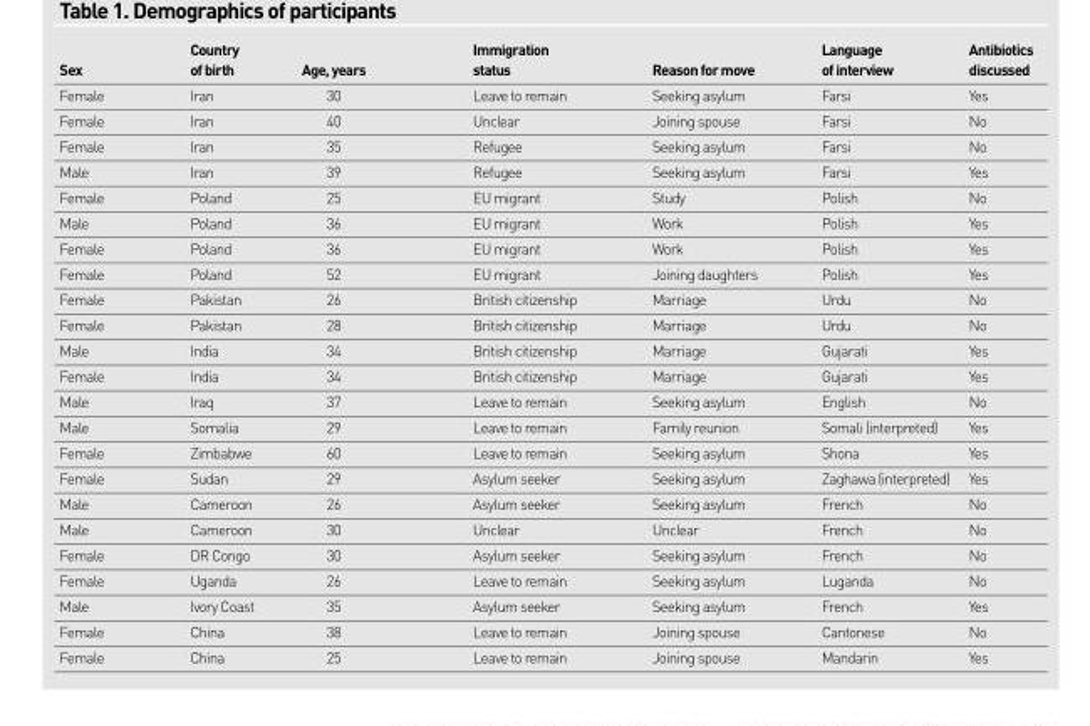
<table><thead><tr><td>Sex</td><td>of birth</td><td>Age, years</td><td>status</td><td>Reason for move</td><td>of interview</td><td>discussed</td></tr></thead><tbody><tr><td>Female</td><td>Iran</td><td>30</td><td>Leave to remain</td><td>Seeking asylum</td><td>Farsi</td><td>Yes</td></tr><tr><td>Female</td><td>Iran</td><td>40</td><td>Unclear</td><td>Joining spouse</td><td>Farsi</td><td>No</td></tr><tr><td>Female</td><td>Iran</td><td>35</td><td>Refugee</td><td>Seeking asylum</td><td>Farsi</td><td>No</td></tr><tr><td>Male</td><td>Iran</td><td>39</td><td>Refugee</td><td>Seeking asylum</td><td>Farsi</td><td>Yes</td></tr><tr><td>Female</td><td>Poland</td><td>25</td><td>EU migrant</td><td>Study</td><td>Polish</td><td>No</td></tr><tr><td>Male</td><td>Poland</td><td>36</td><td>EU migrant</td><td>Work</td><td>Polish</td><td>Yes</td></tr><tr><td>Female</td><td>Poland</td><td>36</td><td>EU migrant</td><td>Work</td><td>Polish</td><td>Yes</td></tr><tr><td>Female</td><td>Poland</td><td>52</td><td>EU migrant</td><td>Joining daughters</td><td>Polish</td><td>Yes</td></tr><tr><td>Female</td><td>Pakistan</td><td>26</td><td>British citizenship</td><td>Marriage</td><td>Urdu</td><td>No</td></tr><tr><td>Female</td><td>Pakistan</td><td>28</td><td>British citizenship</td><td>Marriage</td><td>Urdu</td><td>No</td></tr><tr><td>Male</td><td>India</td><td>34</td><td>British citizenship</td><td>Marriage</td><td>Gujarati</td><td>Yes</td></tr><tr><td>Female</td><td>India</td><td>34</td><td>British citizenship</td><td>Marriage</td><td>Gujarati</td><td>Yes</td></tr><tr><td>Male</td><td>Iraq</td><td>37</td><td>Leave to remain</td><td>Seeking asylum</td><td>English</td><td>No</td></tr><tr><td>Male</td><td>Somalia</td><td>29</td><td>Leave to remain</td><td>Family reunion</td><td>Somali (interpreted)</td><td>Yes</td></tr><tr><td>Female</td><td>Zimbabwe</td><td>60</td><td>Leave to remain</td><td>Seeking asylum</td><td>Shona</td><td>Yes</td></tr><tr><td>Female</td><td>Sudan</td><td>29</td><td>Asylum seeker</td><td>Seeking asylum</td><td>Zaghawa (interpreted)</td><td>Yes</td></tr><tr><td>Male</td><td>Cameroon</td><td>26</td><td>Asylum seeker</td><td>Seeking asylum</td><td>French</td><td>No</td></tr><tr><td>Male</td><td>Cameroon</td><td>30</td><td>Unclear</td><td>Unclear</td><td>French</td><td>No</td></tr><tr><td>Female</td><td>DR Congo</td><td>30</td><td>Asylum seeker</td><td>Seeking asylum</td><td>French</td><td>No</td></tr><tr><td>Female</td><td>Uganda</td><td>26</td><td>Leave to remain</td><td>Seeking asylum</td><td>Luganda</td><td>No</td></tr><tr><td>Male</td><td>Ivory Coast</td><td>35</td><td>Asylum seeker</td><td>Seeking asylum</td><td>French</td><td>Yes</td></tr><tr><td>Female</td><td>China</td><td>38</td><td>Leave to remain</td><td>Joining spouse</td><td>Cantonese</td><td>No</td></tr><tr><td>Female</td><td>China</td><td>25</td><td>Leave to remain</td><td>Joining spouse</td><td>Mandarin</td><td>Yes</td></tr></tbody></table>